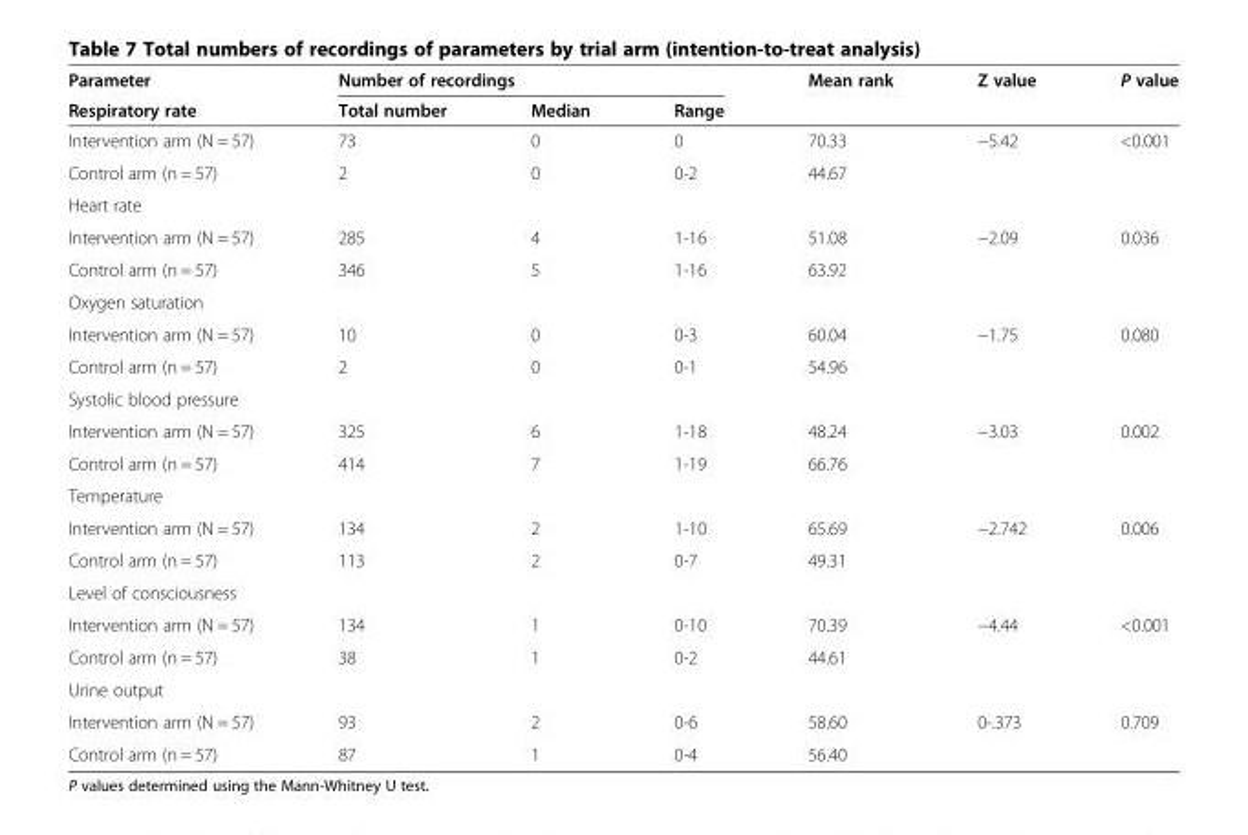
<table><thead><tr><td rowspan="2">Parameter Respiratory rate</td><td colspan="3">Number of recordings</td><td rowspan="2">Mean rank</td><td rowspan="2">Z value</td><td rowspan="2">P value</td></tr><tr><td>Total number</td><td>Median</td><td>Range</td></tr></thead><tbody><tr><td>Intervention arm (N = 57)</td><td>73</td><td>0</td><td>0</td><td>70.33</td><td rowspan="2">−5.42</td><td rowspan="2">&lt;0.001</td></tr><tr><td>Control arm (n = 57)</td><td>2</td><td>0</td><td>0-2</td><td>44.67</td></tr><tr><td colspan="7">Heart rate</td></tr><tr><td>Intervention arm (N = 57)</td><td>285</td><td>4</td><td>1-16</td><td>51.08</td><td>−2.09</td><td>0.036</td></tr><tr><td>Control arm (n = 57)</td><td>346</td><td>5</td><td>1-16</td><td>63.92</td><td></td><td></td></tr><tr><td colspan="7">Oxygen saturation</td></tr><tr><td>Intervention arm (N = 57)</td><td>10</td><td>0</td><td>0-3</td><td>60.04</td><td rowspan="2">−1.75</td><td rowspan="2">0.080</td></tr><tr><td>Control arm (n = 57)</td><td>2</td><td>0</td><td>0-1</td><td>54.96</td></tr><tr><td colspan="7">Systolic blood pressure</td></tr><tr><td>Intervention arm (N = 57)</td><td>325</td><td>6</td><td>1-18</td><td>48.24</td><td rowspan="2">−3.03</td><td rowspan="2">0.002</td></tr><tr><td>Control arm (n = 57)</td><td>414</td><td>7</td><td>1-19</td><td>66.76</td></tr><tr><td colspan="7">Temperature</td></tr><tr><td>Intervention arm (N = 57)</td><td>134</td><td>2</td><td>1-10</td><td>65.69</td><td rowspan="2">−2.742</td><td rowspan="2">0.006</td></tr><tr><td>Control arm (n = 57)</td><td>113</td><td>2</td><td>0-7</td><td>49.31</td></tr><tr><td colspan="7">Level of consciousness</td></tr><tr><td>Intervention arm (N = 57)</td><td>134</td><td>1</td><td>0-10</td><td>70.39</td><td rowspan="2">−4.44</td><td rowspan="2">&lt;0.001</td></tr><tr><td>Control arm (n = 57)</td><td>38</td><td>1</td><td>0-2</td><td>44.61</td></tr><tr><td colspan="7">Urine output</td></tr><tr><td>Intervention arm (N = 57)</td><td>93</td><td>2</td><td>0-6</td><td>58.60</td><td rowspan="2">0-.373</td><td rowspan="2">0.709</td></tr><tr><td>Control arm (n = 57)</td><td>87</td><td>1</td><td>0-4</td><td>56.40</td></tr></tbody></table>